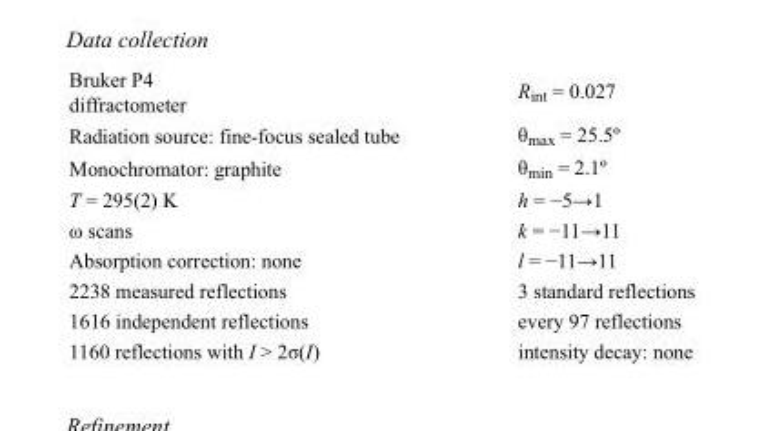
<table><tbody><tr><td>Bruker P4 diffractometer</td><td>R<sub>int</sub> = 0.027</td></tr><tr><td>Radiation source: fine-focus sealed tube</td><td>θ<sub>max</sub> = 25.5º</td></tr><tr><td>Monochromator: graphite</td><td>θ<sub>min</sub> = 2.1º</td></tr><tr><td>T = 295(2) K</td><td>h = −5→1</td></tr><tr><td>ω scans</td><td>k = −11→11</td></tr><tr><td>Absorption correction: none</td><td>l = −11→11</td></tr><tr><td>2238 measured reflections</td><td>3 standard reflections</td></tr><tr><td>1616 independent reflections</td><td>every 97 reflections</td></tr><tr><td>1160 reflections with I &gt; 2σ(I)</td><td>intensity decay: none</td></tr></tbody></table>